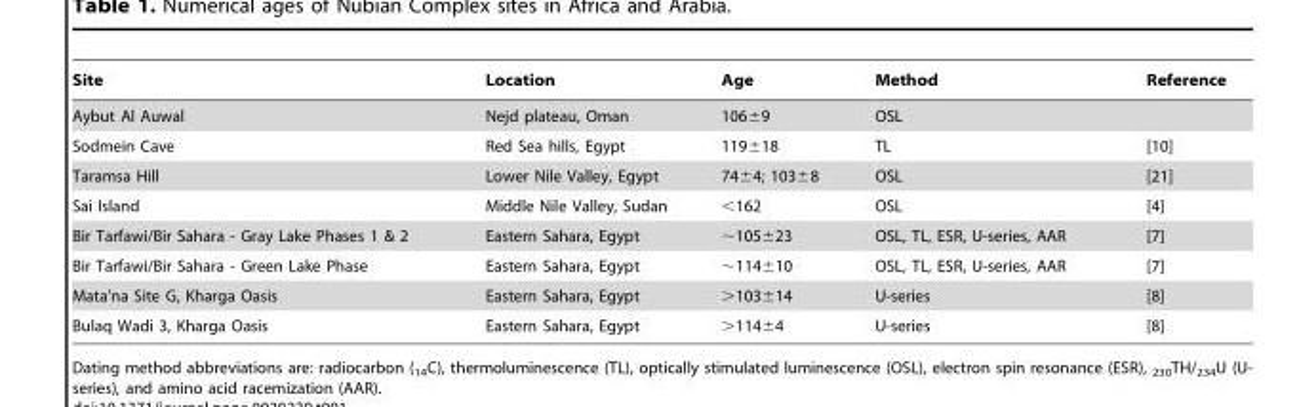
<table><thead><tr><td>Site</td><td>Location</td><td>Age</td><td>Method</td><td>Reference</td></tr></thead><tbody><tr><td>Aybut Al Auwal</td><td>Nejd plateau, Oman</td><td>106±9</td><td>OSL</td><td></td></tr><tr><td>Sodmein Cave</td><td>Red Sea hills, Egypt</td><td>119±18</td><td>TL</td><td>[10]</td></tr><tr><td>Taramsa Hill</td><td>Lower Nile Valley, Egypt</td><td>74±4; 103±8</td><td>OSL</td><td>[21]</td></tr><tr><td>Sai Island</td><td>Middle Nile Valley, Sudan</td><td>&lt;162</td><td>OSL</td><td>[4]</td></tr><tr><td>Bir Tarfawi/Bir Sahara - Gray Lake Phases 1 &amp; 2</td><td>Eastern Sahara, Egypt</td><td>∼105±23</td><td>OSL, TL, ESR, U-series, AAR</td><td>[7]</td></tr><tr><td>Bir Tarfawi/Bir Sahara - Green Lake Phase</td><td>Eastern Sahara, Egypt</td><td>∼114±10</td><td>OSL, TL, ESR, U-series, AAR</td><td>[7]</td></tr><tr><td>Mata’na Site G, Kharga Oasis</td><td>Eastern Sahara, Egypt</td><td>&gt;103±14</td><td>U-series</td><td>[8]</td></tr><tr><td>Bulaq Wadi 3, Kharga Oasis</td><td>Eastern Sahara, Egypt</td><td>&gt;114±4</td><td>U-series</td><td>[8]</td></tr></tbody></table>